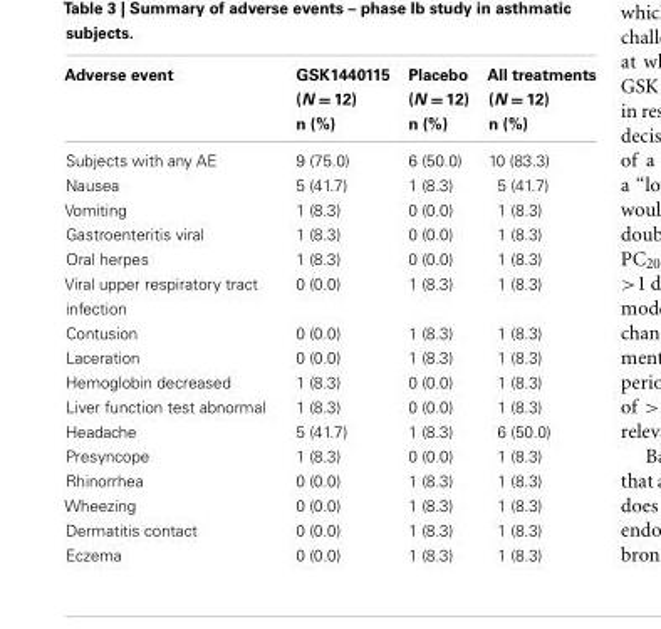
<table><thead><tr><td>Adverse event</td><td>GSK1440115 (N = 12) n (%)</td><td>Placebo (N = 12) n (%)</td><td>All treatments (N = 12) n (%)</td></tr></thead><tbody><tr><td>Subjects with any AE</td><td>9 (75.0)</td><td>6 (50.0)</td><td>10 (83.3)</td></tr><tr><td>Nausea</td><td>5 (41.7)</td><td>1 (8.3)</td><td>5 (41.7)</td></tr><tr><td>Vomiting</td><td>1 (8.3)</td><td>0 (0.0)</td><td>1 (8.3)</td></tr><tr><td>Gastroenteritis viral</td><td>1 (8.3)</td><td>0 (0.0)</td><td>1 (8.3)</td></tr><tr><td>Oral herpes</td><td>1 (8.3)</td><td>0 (0.0)</td><td>1 (8.3)</td></tr><tr><td>Viral upper respiratory tract infection</td><td>0 (0.0)</td><td>1 (8.3)</td><td>1 (8.3)</td></tr><tr><td>Contusion</td><td>0 (0.0)</td><td>1 (8.3)</td><td>1 (8.3)</td></tr><tr><td>Laceration</td><td>0 (0.0)</td><td>1 (8.3)</td><td>1 (8.3)</td></tr><tr><td>Hemoglobin decreased</td><td>1 (8.3)</td><td>0 (0.0)</td><td>1 (8.3)</td></tr><tr><td>Liver function test abnormal</td><td>1 (8.3)</td><td>0 (0.0)</td><td>1 (8.3)</td></tr><tr><td>Headache</td><td>5 (41.7)</td><td>1 (8.3)</td><td>6 (50.0)</td></tr><tr><td>Presyncope</td><td>1 (8.3)</td><td>0 (0.0)</td><td>1 (8.3)</td></tr><tr><td>Rhinorrhea</td><td>0 (0.0)</td><td>1 (8.3)</td><td>1 (8.3)</td></tr><tr><td>Wheezing</td><td>0 (0.0)</td><td>1 (8.3)</td><td>1 (8.3)</td></tr><tr><td>Dermatitis contact</td><td>0 (0.0)</td><td>1 (8.3)</td><td>1 (8.3)</td></tr><tr><td>Eczema</td><td>0 (0.0)</td><td>1 (8.3)</td><td>1 (8.3)</td></tr></tbody></table>